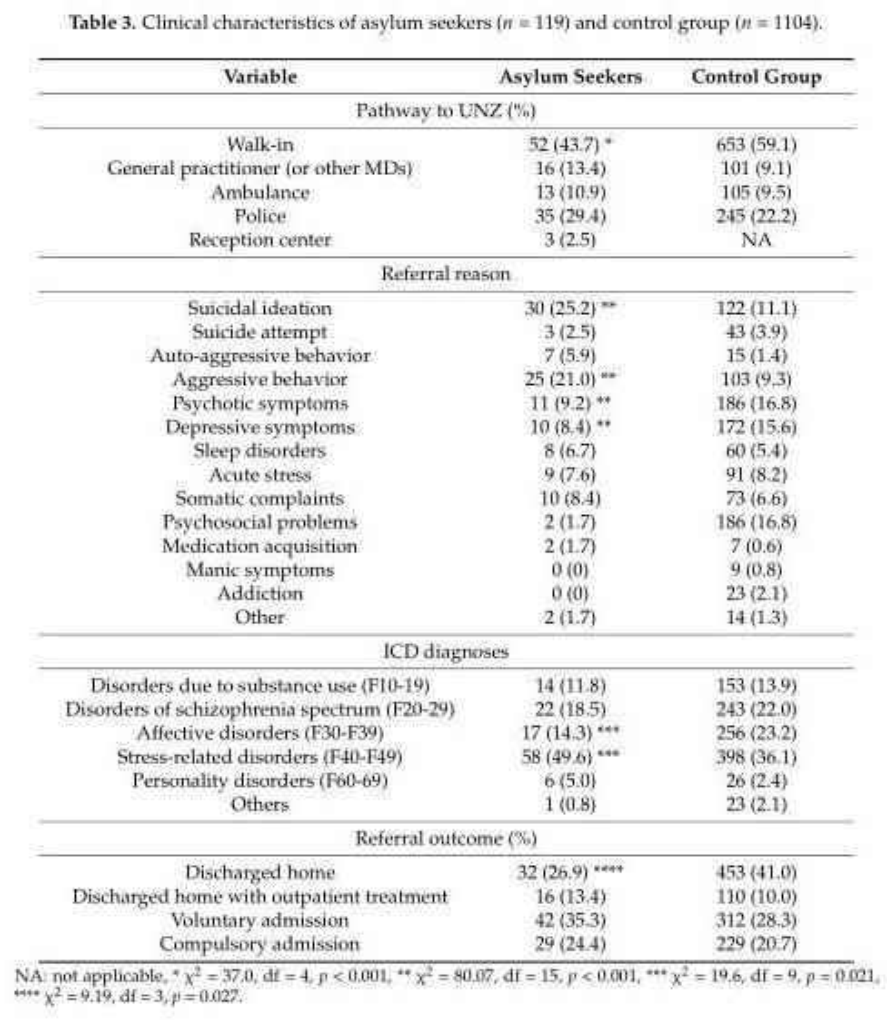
<table><thead><tr><td>Variable</td><td>Asylum Seekers</td><td>Control Group</td></tr></thead><tbody><tr><td colspan="3">Pathway to UNZ (%)</td></tr><tr><td>Walk-in</td><td>52 (43.7) *</td><td>653 (59.1)</td></tr><tr><td>General practitioner (or other MDs)</td><td>16 (13.4)</td><td>101 (9.1)</td></tr><tr><td>Ambulance</td><td>13 (10.9)</td><td>105 (9.5)</td></tr><tr><td>Police</td><td>35 (29.4)</td><td>245 (22.2)</td></tr><tr><td>Reception center</td><td>3 (2.5)</td><td>NA</td></tr><tr><td colspan="3">Referral reason</td></tr><tr><td>Suicidal ideation</td><td>30 (25.2) **</td><td>122 (11.1)</td></tr><tr><td>Suicide attempt</td><td>3 (2.5)</td><td>43 (3.9)</td></tr><tr><td>Auto-aggressive behavior</td><td>7 (5.9)</td><td>15 (1.4)</td></tr><tr><td>Aggressive behavior</td><td>25 (21.0) **</td><td>103 (9.3)</td></tr><tr><td>Psychotic symptoms</td><td>11 (9.2) **</td><td>186 (16.8)</td></tr><tr><td>Depressive symptoms</td><td>10 (8.4) **</td><td>172 (15.6)</td></tr><tr><td>Sleep disorders</td><td>8 (6.7)</td><td>60 (5.4)</td></tr><tr><td>Acute stress</td><td>9 (7.6)</td><td>91 (8.2)</td></tr><tr><td>Somatic complaints</td><td>10 (8.4)</td><td>73 (6.6)</td></tr><tr><td>Psychosocial problems</td><td>2 (1.7)</td><td>186 (16.8)</td></tr><tr><td>Medication acquisition</td><td>2 (1.7)</td><td>7 (0.6)</td></tr><tr><td>Manic symptoms</td><td>0 (0)</td><td>9 (0.8)</td></tr><tr><td>Addiction</td><td>0 (0)</td><td>23 (2.1)</td></tr><tr><td>Other</td><td>2 (1.7)</td><td>14 (1.3)</td></tr><tr><td colspan="3">ICD diagnoses</td></tr><tr><td>Disorders due to substance use (F10-19)</td><td>14 (11.8)</td><td>153 (13.9)</td></tr><tr><td>Disorders of schizophrenia spectrum (F20-29)</td><td>22 (18.5)</td><td>243 (22.0)</td></tr><tr><td>Affective disorders (F30-F39)</td><td>17 (14.3) ***</td><td>256 (23.2)</td></tr><tr><td>Stress-related disorders (F40-F49)</td><td>58 (49.6) ***</td><td>398 (36.1)</td></tr><tr><td>Personality disorders (F60-69)</td><td>6 (5.0)</td><td>26 (2.4)</td></tr><tr><td>Others</td><td>1 (0.8)</td><td>23 (2.1)</td></tr><tr><td colspan="3">Referral outcome (%)</td></tr><tr><td>Discharged home</td><td>32 (26.9) ****</td><td>453 (41.0)</td></tr><tr><td>Discharged home with outpatient treatment</td><td>16 (13.4)</td><td>110 (10.0)</td></tr><tr><td>Voluntary admission</td><td>42 (35.3)</td><td>312 (28.3)</td></tr><tr><td>Compulsory admission</td><td>29 (24.4)</td><td>229 (20.7)</td></tr></tbody></table>